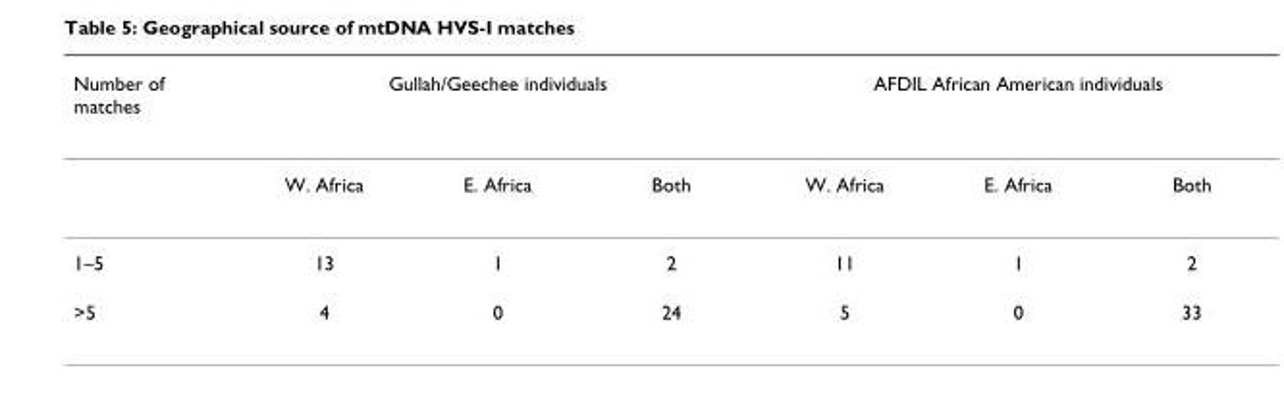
<table><thead><tr><td rowspan="2">Number of matches</td><td colspan="3">Gullah/Geechee individuals</td><td colspan="3">AFDIL African American individuals</td></tr><tr><td>W. Africa</td><td>E. Africa</td><td>Both</td><td>W. Africa</td><td>E. Africa</td><td>Both</td></tr></thead><tbody><tr><td>1–5</td><td>13</td><td>1</td><td>2</td><td>11</td><td>1</td><td>2</td></tr><tr><td>&gt;5</td><td>4</td><td>0</td><td>24</td><td>5</td><td>0</td><td>33</td></tr></tbody></table>